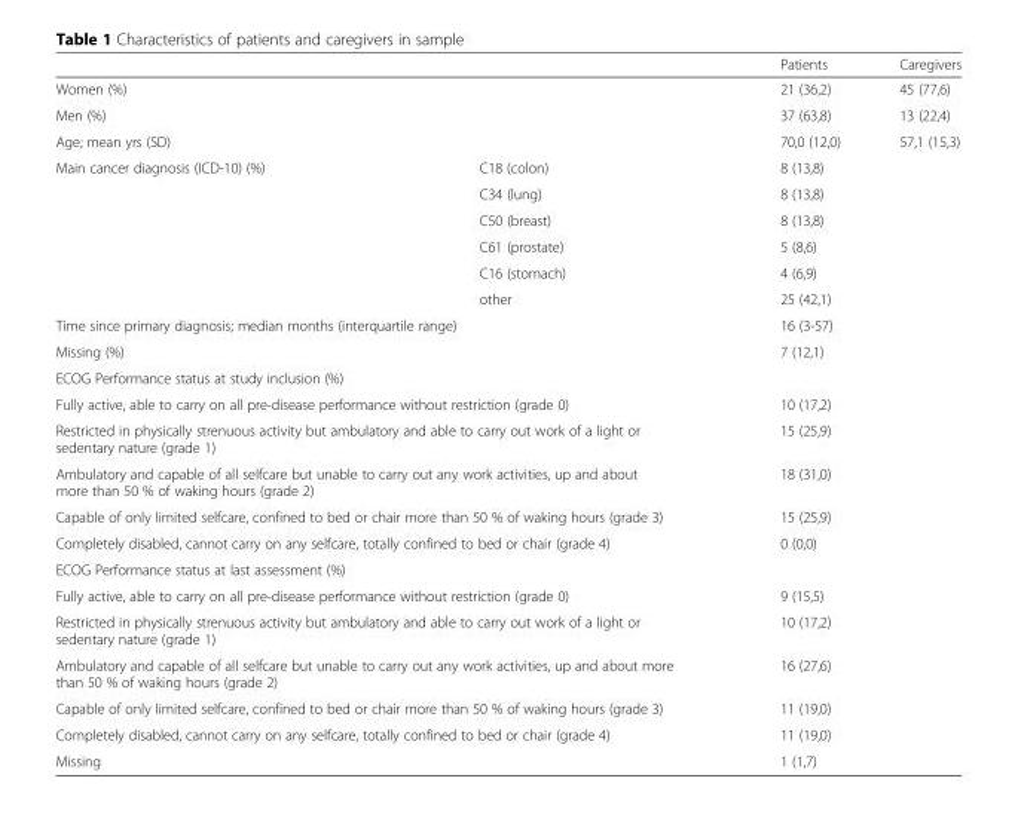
<table><thead><tr><td></td><td></td><td>Patients</td><td>Caregivers</td></tr></thead><tbody><tr><td colspan="2">Women (%)</td><td>21 (36,2)</td><td>45 (77,6)</td></tr><tr><td colspan="2">Men (%)</td><td>37 (63,8)</td><td>13 (22,4)</td></tr><tr><td colspan="2">Age; mean yrs (SD)</td><td>70,0 (12,0)</td><td>57,1 (15,3)</td></tr><tr><td rowspan="6">Main cancer diagnosis (ICD-10) (%)</td><td>C18 (colon)</td><td>8 (13,8)</td><td></td></tr><tr><td>C34 (lung)</td><td>8 (13,8)</td><td></td></tr><tr><td>C50 (breast)</td><td>8 (13,8)</td><td></td></tr><tr><td>C61 (prostate)</td><td>5 (8,6)</td><td></td></tr><tr><td>C16 (stomach)</td><td>4 (6,9)</td><td></td></tr><tr><td>other</td><td>25 (42,1)</td><td></td></tr><tr><td colspan="2">Time since primary diagnosis; median months (interquartile range)</td><td>16 (3-57)</td><td></td></tr><tr><td colspan="2">Missing (%)</td><td>7 (12,1)</td><td></td></tr><tr><td colspan="4">ECOG Performance status at study inclusion (%)</td></tr><tr><td colspan="2">Fully active, able to carry on all pre-disease performance without restriction (grade 0)</td><td>10 (17,2)</td><td></td></tr><tr><td colspan="2">Restricted in physically strenuous activity but ambulatory and able to carry out work of a light or sedentary nature (grade 1)</td><td>15 (25,9)</td><td></td></tr><tr><td colspan="2">Ambulatory and capable of all selfcare but unable to carry out any work activities, up and about more than 50 % of waking hours (grade 2)</td><td>18 (31,0)</td><td></td></tr><tr><td colspan="2">Capable of only limited selfcare, confined to bed or chair more than 50 % of waking hours (grade 3)</td><td>15 (25,9)</td><td></td></tr><tr><td colspan="2">Completely disabled, cannot carry on any selfcare, totally confined to bed or chair (grade 4)</td><td>0 (0,0)</td><td></td></tr><tr><td colspan="4">ECOG Performance status at last assessment (%)</td></tr><tr><td colspan="2">Fully active, able to carry on all pre-disease performance without restriction (grade 0)</td><td>9 (15,5)</td><td></td></tr><tr><td colspan="2">Restricted in physically strenuous activity but ambulatory and able to carry out work of a light or sedentary nature (grade 1)</td><td>10 (17,2)</td><td></td></tr><tr><td colspan="2">Ambulatory and capable of all selfcare but unable to carry out any work activities, up and about more than 50 % of waking hours (grade 2)</td><td>16 (27,6)</td><td></td></tr><tr><td colspan="2">Capable of only limited selfcare, confined to bed or chair more than 50 % of waking hours (grade 3)</td><td>11 (19,0)</td><td></td></tr><tr><td colspan="2">Completely disabled, cannot carry on any selfcare, totally confined to bed or chair (grade 4)</td><td>11 (19,0)</td><td></td></tr><tr><td colspan="2">Missing</td><td>1 (1,7)</td><td></td></tr></tbody></table>